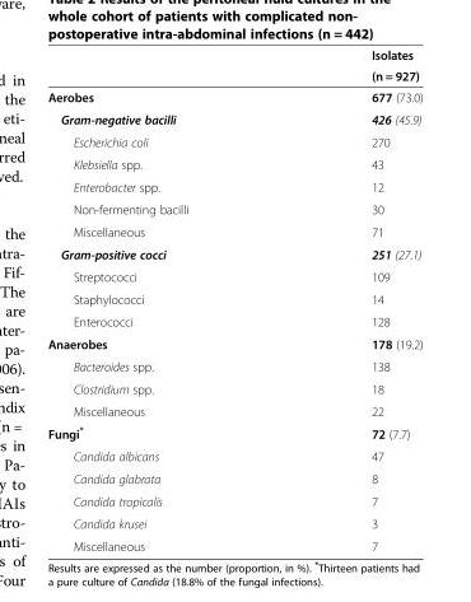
<table><thead><tr><td rowspan="2"></td><td rowspan="2">Isolates (n = 927)</td></tr><tr></tr></thead><tbody><tr><td>Aerobes</td><td>677 (73.0)</td></tr><tr><td>Gram-negative bacilli</td><td>426 (45.9)</td></tr><tr><td>Escherichia coli</td><td>270</td></tr><tr><td>Klebsiella spp.</td><td>43</td></tr><tr><td>Enterobacter spp.</td><td>12</td></tr><tr><td>Non-fermenting bacilli</td><td>30</td></tr><tr><td>Miscellaneous</td><td>71</td></tr><tr><td>Gram-positive cocci</td><td>251 (27.1)</td></tr><tr><td>Streptococci</td><td>109</td></tr><tr><td>Staphylococci</td><td>14</td></tr><tr><td>Enterococci</td><td>128</td></tr><tr><td>Anaerobes</td><td>178 (19.2)</td></tr><tr><td>Bacteroides spp.</td><td>138</td></tr><tr><td>Clostridium spp.</td><td>18</td></tr><tr><td>Miscellaneous</td><td>22</td></tr><tr><td>Fungi*</td><td>72 (7.7)</td></tr><tr><td>Candida albicans</td><td>47</td></tr><tr><td>Candida glabrata</td><td>8</td></tr><tr><td>Candida tropicalis</td><td>7</td></tr><tr><td>Candida krusei</td><td>3</td></tr><tr><td>Miscellaneous</td><td>7</td></tr></tbody></table>